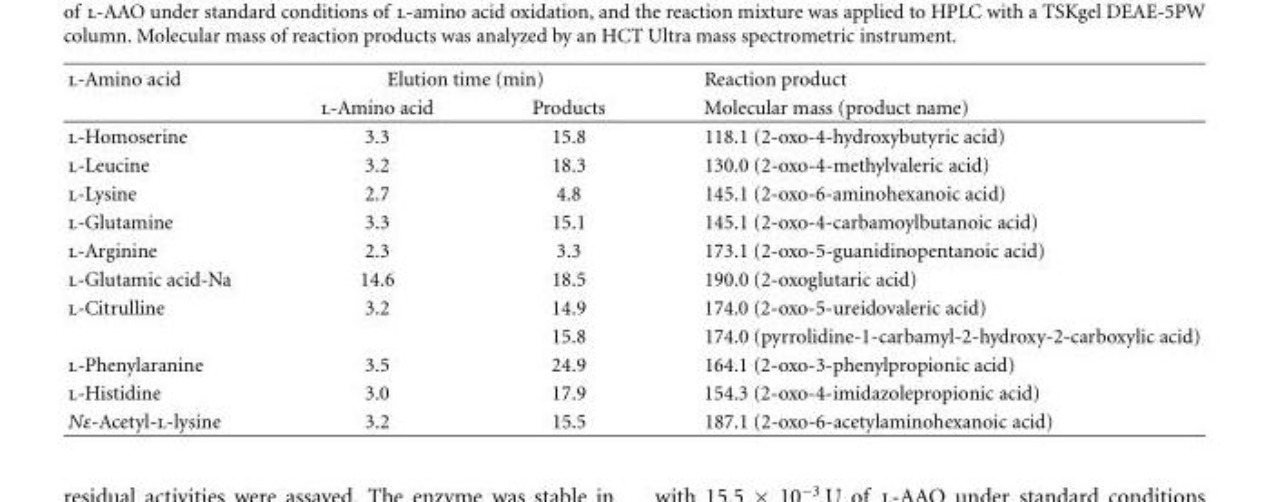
<table><thead><tr><td rowspan="2">l-Amino acid</td><td colspan="2">Elution time (min)</td><td rowspan="2">Reaction product Molecular mass (product name)</td></tr><tr><td>l-Amino acid</td><td>Products</td></tr></thead><tbody><tr><td>l-Homoserine</td><td>3.3</td><td>15.8</td><td>118.1 (2-oxo-4-hydroxybutyric acid)</td></tr><tr><td>l-Leucine</td><td>3.2</td><td>18.3</td><td>130.0 (2-oxo-4-methylvaleric acid)</td></tr><tr><td>l-Lysine</td><td>2.7</td><td>4.8</td><td>145.1 (2-oxo-6-aminohexanoic acid)</td></tr><tr><td>l-Glutamine</td><td>3.3</td><td>15.1</td><td>145.1 (2-oxo-4-carbamoylbutanoic acid)</td></tr><tr><td>l-Arginine</td><td>2.3</td><td>3.3</td><td>173.1 (2-oxo-5-guanidinopentanoic acid)</td></tr><tr><td>l-Glutamic acid-Na</td><td>14.6</td><td>18.5</td><td>190.0 (2-oxoglutaric acid)</td></tr><tr><td rowspan="2">l-Citrulline</td><td>3.2</td><td>14.9</td><td>174.0 (2-oxo-5-ureidovaleric acid)</td></tr><tr><td></td><td>15.8</td><td>174.0 (pyrrolidine-1-carbamyl-2-hydroxy-2-carboxylic acid)</td></tr><tr><td>l-Phenylaranine</td><td>3.5</td><td>24.9</td><td>164.1 (2-oxo-3-phenylpropionic acid)</td></tr><tr><td>l-Histidine</td><td>3.0</td><td>17.9</td><td>154.3 (2-oxo-4-imidazolepropionic acid)</td></tr><tr><td>Nε-Acetyl-l-lysine</td><td>3.2</td><td>15.5</td><td>187.1 (2-oxo-6-acetylaminohexanoic acid)</td></tr></tbody></table>